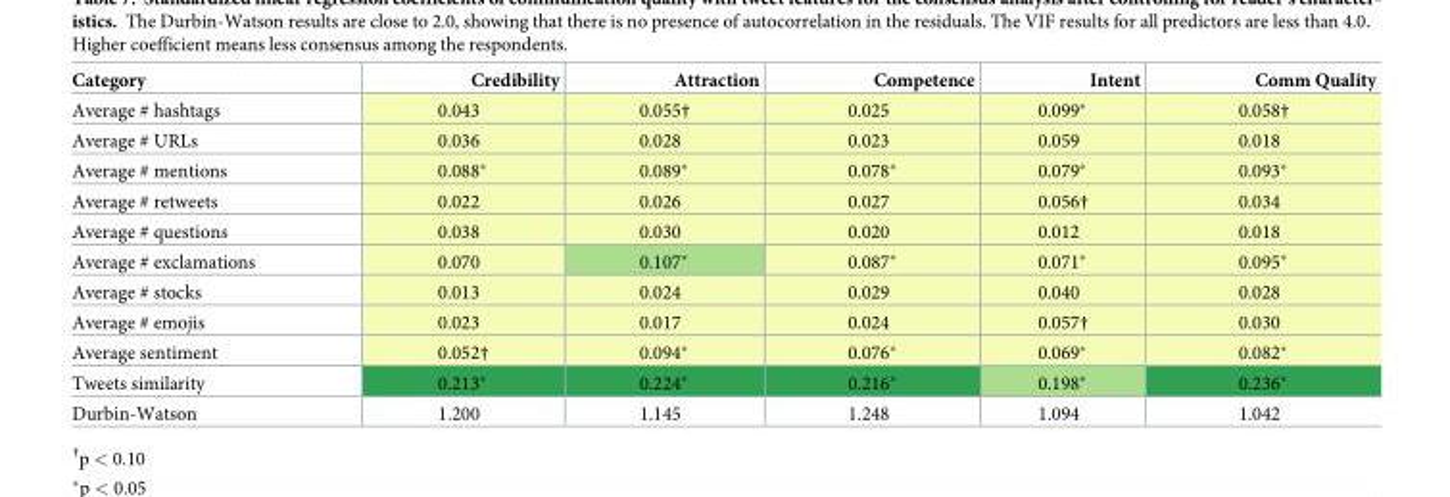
<table><thead><tr><td>Category</td><td>Credibility</td><td>Attraction</td><td>Competence</td><td>Intent</td><td>Comm Quality</td></tr></thead><tbody><tr><td>Average # hashtags</td><td>0.043</td><td>0.055†</td><td>0.025</td><td>0.099*</td><td>0.058†</td></tr><tr><td>Average # URLs</td><td>0.036</td><td>0.028</td><td>0.023</td><td>0.059</td><td>0.018</td></tr><tr><td>Average # mentions</td><td>0.088*</td><td>0.089*</td><td>0.078*</td><td>0.079*</td><td>0.093*</td></tr><tr><td>Average # retweets</td><td>0.022</td><td>0.026</td><td>0.027</td><td>0.056†</td><td>0.034</td></tr><tr><td>Average # questions</td><td>0.038</td><td>0.030</td><td>0.020</td><td>0.012</td><td>0.018</td></tr><tr><td>Average # exclamations</td><td>0.070</td><td>0.107*</td><td>0.087*</td><td>0.071*</td><td>0.095*</td></tr><tr><td>Average # stocks</td><td>0.013</td><td>0.024</td><td>0.029</td><td>0.040</td><td>0.028</td></tr><tr><td>Average # emojis</td><td>0.023</td><td>0.017</td><td>0.024</td><td>0.057†</td><td>0.030</td></tr><tr><td>Average sentiment</td><td>0.052†</td><td>0.094*</td><td>0.076*</td><td>0.069*</td><td>0.082*</td></tr><tr><td>Tweets similarity</td><td>0.213*</td><td>0.224*</td><td>0.216*</td><td>0.198*</td><td>0.236*</td></tr><tr><td>Durbin-Watson</td><td>1.200</td><td>1.145</td><td>1.248</td><td>1.094</td><td>1.042</td></tr></tbody></table>